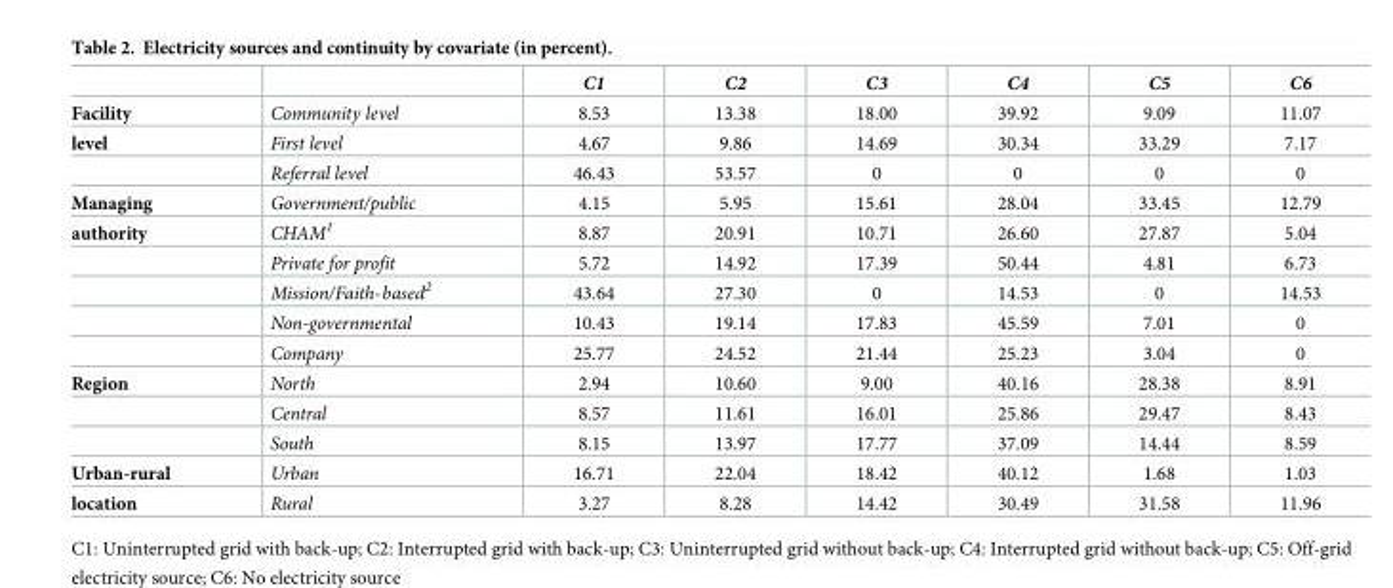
<table><thead><tr><td></td><td></td><td>C1</td><td>C2</td><td>C3</td><td>C4</td><td>C5</td><td>C6</td></tr></thead><tbody><tr><td>Facility</td><td>Community level</td><td>8.53</td><td>13.38</td><td>18.00</td><td>39.92</td><td>9.09</td><td>11.07</td></tr><tr><td rowspan="2">level</td><td>First level</td><td>4.67</td><td>9.86</td><td>14.69</td><td>30.34</td><td>33.29</td><td>7.17</td></tr><tr><td>Referral level</td><td>46.43</td><td>53.57</td><td>0</td><td>0</td><td>0</td><td>0</td></tr><tr><td>Managing</td><td>Government/public</td><td>4.15</td><td>5.95</td><td>15.61</td><td>28.04</td><td>33.45</td><td>12.79</td></tr><tr><td rowspan="5">authority</td><td>CHAM<sup>1</sup></td><td>8.87</td><td>20.91</td><td>10.71</td><td>26.60</td><td>27.87</td><td>5.04</td></tr><tr><td>Private for profit</td><td>5.72</td><td>14.92</td><td>17.39</td><td>50.44</td><td>4.81</td><td>6.73</td></tr><tr><td>Mission/Faith-based<sup>2</sup></td><td>43.64</td><td>27.30</td><td>0</td><td>14.53</td><td>0</td><td>14.53</td></tr><tr><td>Non-governmental</td><td>10.43</td><td>19.14</td><td>17.83</td><td>45.59</td><td>7.01</td><td>0</td></tr><tr><td>Company</td><td>25.77</td><td>24.52</td><td>21.44</td><td>25.23</td><td>3.04</td><td>0</td></tr><tr><td rowspan="3">Region</td><td>North</td><td>2.94</td><td>10.60</td><td>9.00</td><td>40.16</td><td>28.38</td><td>8.91</td></tr><tr><td>Central</td><td>8.57</td><td>11.61</td><td>16.01</td><td>25.86</td><td>29.47</td><td>8.43</td></tr><tr><td>South</td><td>8.15</td><td>13.97</td><td>17.77</td><td>37.09</td><td>14.44</td><td>8.59</td></tr><tr><td>Urban-rural</td><td>Urban</td><td>16.71</td><td>22.04</td><td>18.42</td><td>40.12</td><td>1.68</td><td>1.03</td></tr><tr><td>location</td><td>Rural</td><td>3.27</td><td>8.28</td><td>14.42</td><td>30.49</td><td>31.58</td><td>11.96</td></tr></tbody></table>